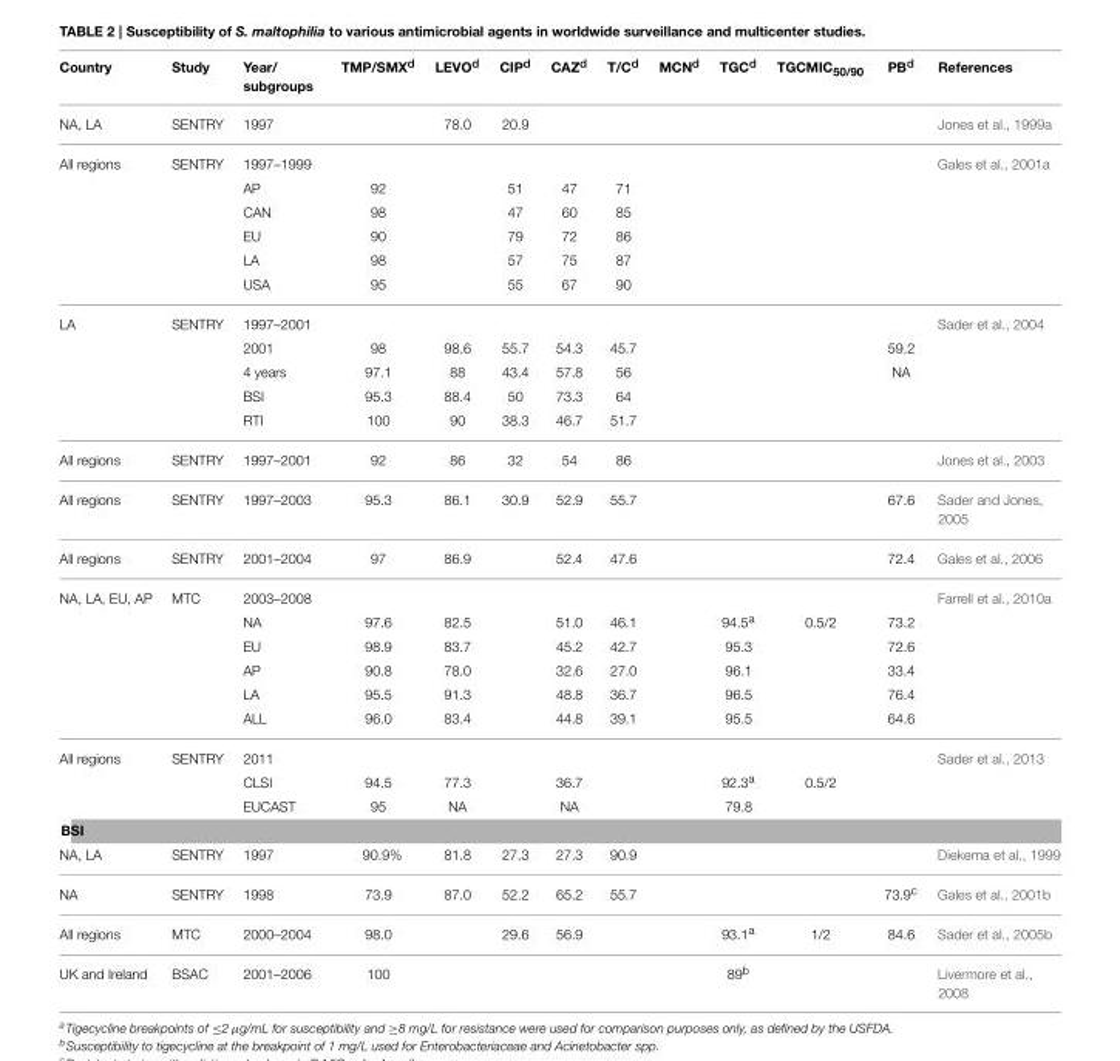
<table><thead><tr><td>Country</td><td>Study</td><td>Year/ subgroups</td><td>TMP/SMX<sup>d</sup></td><td>LEVO<sup>d</sup></td><td>CIP<sup>d</sup></td><td>CAZ<sup>d</sup></td><td>T/C<sup>d</sup></td><td>MCN<sup>d</sup></td><td>TGC<sup>d</sup></td><td>TGCMIC50/90</td><td>PB<sup>d</sup></td><td>References</td></tr></thead><tbody><tr><td>NA, LA</td><td>SENTRY</td><td>1997</td><td></td><td>78.0</td><td>20.9</td><td></td><td></td><td></td><td></td><td></td><td></td><td>Jones et al., 1999a</td></tr><tr><td rowspan="6">All regions</td><td>SENTRY</td><td colspan="10">1997–1999</td><td>Gales et al., 2001a</td></tr><tr><td></td><td>AP</td><td>92</td><td></td><td>51</td><td>47</td><td>71</td><td></td><td></td><td></td><td></td><td></td></tr><tr><td></td><td>CAN</td><td>98</td><td></td><td>47</td><td>60</td><td>85</td><td></td><td></td><td></td><td></td><td></td></tr><tr><td></td><td>EU</td><td>90</td><td></td><td>79</td><td>72</td><td>86</td><td></td><td></td><td></td><td></td><td></td></tr><tr><td></td><td>LA</td><td>98</td><td></td><td>57</td><td>75</td><td>87</td><td></td><td></td><td></td><td></td><td></td></tr><tr><td></td><td>USA</td><td>95</td><td></td><td>55</td><td>67</td><td>90</td><td></td><td></td><td></td><td></td><td></td></tr><tr><td rowspan="5">LA</td><td>SENTRY</td><td colspan="10">1997–2001</td><td>Sader et al., 2004</td></tr><tr><td></td><td>2001</td><td>98</td><td>98.6</td><td>55.7</td><td>54.3</td><td>45.7</td><td></td><td></td><td></td><td>59.2</td><td></td></tr><tr><td></td><td>4 years</td><td>97.1</td><td>88</td><td>43.4</td><td>57.8</td><td>56</td><td></td><td></td><td></td><td>NA</td><td></td></tr><tr><td></td><td>BSI</td><td>95.3</td><td>88.4</td><td>50</td><td>73.3</td><td>64</td><td></td><td></td><td></td><td></td><td></td></tr><tr><td></td><td>RTI</td><td>100</td><td>90</td><td>38.3</td><td>46.7</td><td>51.7</td><td></td><td></td><td></td><td></td><td></td></tr><tr><td>All regions</td><td>SENTRY</td><td>1997–2001</td><td>92</td><td>86</td><td>32</td><td>54</td><td>86</td><td></td><td></td><td></td><td></td><td>Jones et al., 2003</td></tr><tr><td>All regions</td><td>SENTRY</td><td>1997–2003</td><td>95.3</td><td>86.1</td><td>30.9</td><td>52.9</td><td>55.7</td><td></td><td></td><td></td><td>67.6</td><td>Sader and Jones, 2005</td></tr><tr><td>All regions</td><td>SENTRY</td><td>2001–2004</td><td>97</td><td>86.9</td><td></td><td>52.4</td><td>47.6</td><td></td><td></td><td></td><td>72.4</td><td>Gales et al., 2006</td></tr><tr><td rowspan="6">NA, LA, EU, AP</td><td>MTC</td><td colspan="10">2003–2008</td><td>Farrell et al., 2010a</td></tr><tr><td></td><td>NA</td><td>97.6</td><td>82.5</td><td></td><td>51.0</td><td>46.1</td><td></td><td>94.5<sup>a</sup></td><td>0.5/2</td><td>73.2</td><td></td></tr><tr><td></td><td>EU</td><td>98.9</td><td>83.7</td><td></td><td>45.2</td><td>42.7</td><td></td><td>95.3</td><td></td><td>72.6</td><td></td></tr><tr><td></td><td>AP</td><td>90.8</td><td>78.0</td><td></td><td>32.6</td><td>27.0</td><td></td><td>96.1</td><td></td><td>33.4</td><td></td></tr><tr><td></td><td>LA</td><td>95.5</td><td>91.3</td><td></td><td>48.8</td><td>36.7</td><td></td><td>96.5</td><td></td><td>76.4</td><td></td></tr><tr><td></td><td>ALL</td><td>96.0</td><td>83.4</td><td></td><td>44.8</td><td>39.1</td><td></td><td>95.5</td><td></td><td>64.6</td><td></td></tr><tr><td rowspan="3">All regions</td><td>SENTRY</td><td colspan="10">2011</td><td>Sader et al., 2013</td></tr><tr><td></td><td>CLSI</td><td>94.5</td><td>77.3</td><td></td><td>36.7</td><td></td><td></td><td>92.3<sup>a</sup></td><td>0.5/2</td><td></td><td></td></tr><tr><td></td><td>EUCAST</td><td>95</td><td>NA</td><td></td><td>NA</td><td></td><td></td><td>79.8</td><td></td><td></td><td></td></tr><tr><td colspan="13">BSI</td></tr><tr><td>NA, LA</td><td>SENTRY</td><td>1997</td><td>90.9%</td><td>81.8</td><td>27.3</td><td>27.3</td><td>90.9</td><td></td><td></td><td></td><td></td><td>Diekema et al., 1999</td></tr><tr><td>NA</td><td>SENTRY</td><td>1998</td><td>73.9</td><td>87.0</td><td>52.2</td><td>65.2</td><td>55.7</td><td></td><td></td><td></td><td>73.9<sup>c</sup></td><td>Gales et al., 2001b</td></tr><tr><td>All regions</td><td>MTC</td><td>2000–2004</td><td>98.0</td><td></td><td>29.6</td><td>56.9</td><td></td><td></td><td>93.1<sup>a</sup></td><td>1/2</td><td>84.6</td><td>Sader et al., 2005b</td></tr><tr><td>UK and Ireland</td><td>BSAC</td><td>2001–2006</td><td>100</td><td></td><td></td><td></td><td></td><td></td><td>89<sup>b</sup></td><td></td><td></td><td>Livermore et al., 2008</td></tr></tbody></table>